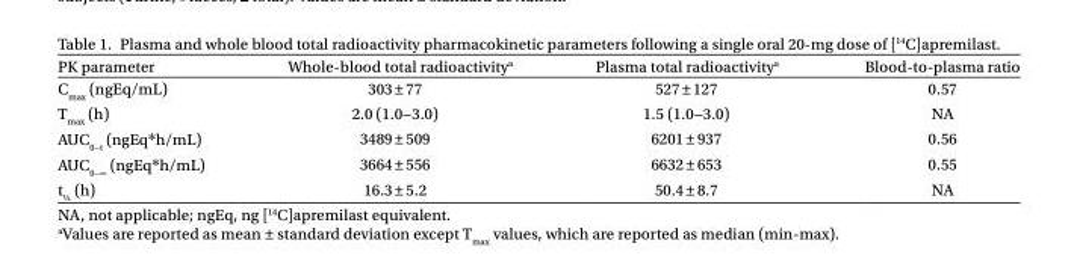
<table><thead><tr><td>PK parameter</td><td>Whole-blood total radioactivity<sup>a</sup></td><td>Plasma total radioactivity<sup>a</sup></td><td>Blood-to-plasma ratio</td></tr></thead><tbody><tr><td>C<sub>max</sub> (ngEq/mL)</td><td>303 ± 77</td><td>527 ± 127</td><td>0.57</td></tr><tr><td>T<sub>max</sub> (h)</td><td>2.0 (1.0−3.0)</td><td>1.5 (1.0−3.0)</td><td>NA</td></tr><tr><td>AUC<sub>0−t</sub> (ngEq*h/mL)</td><td>3489 ± 509</td><td>6201 ± 937</td><td>0.56</td></tr><tr><td>AUC<sub>0−∞</sub> (ngEq*h/mL)</td><td>3664 ± 556</td><td>6632 ± 653</td><td>0.55</td></tr><tr><td>t½ (h)</td><td>16.3 ± 5.2</td><td>50.4 ± 8.7</td><td>NA</td></tr></tbody></table>